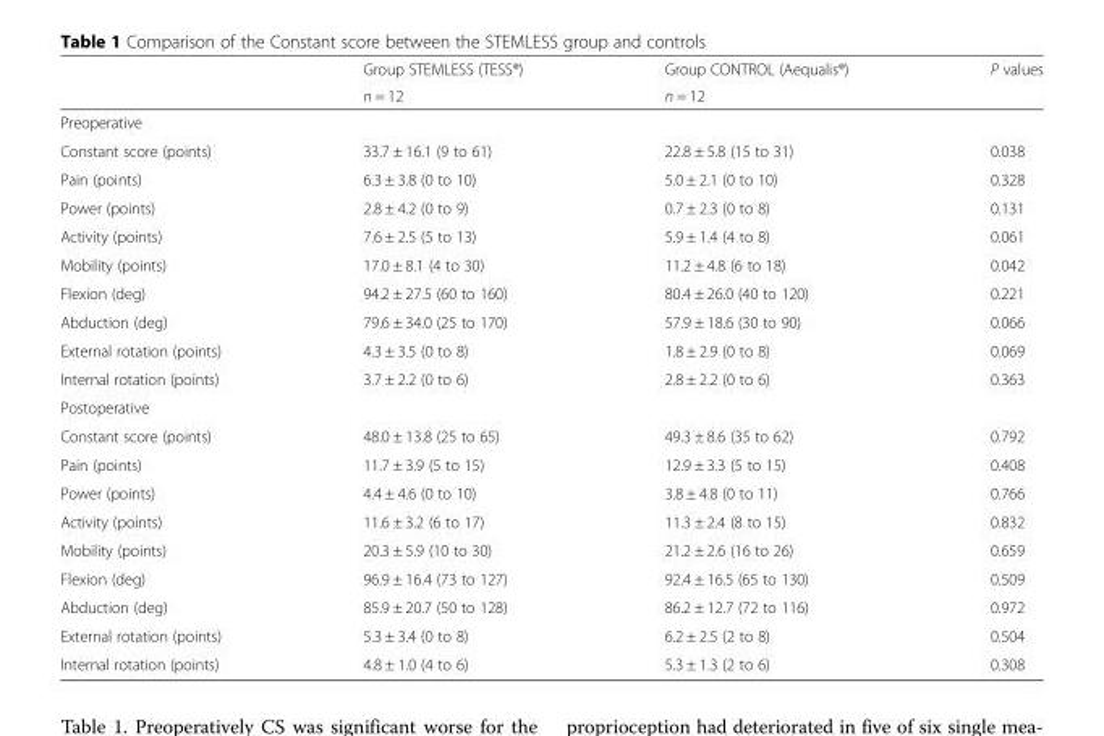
<table><thead><tr><td rowspan="2"></td><td rowspan="2">Group STEMLESS (TESS®) n = 12</td><td rowspan="2">Group CONTROL (Aequalis®) n = 12</td><td rowspan="2">P values</td></tr><tr></tr></thead><tbody><tr><td colspan="4">Preoperative</td></tr><tr><td>Constant score (points)</td><td>33.7 ± 16.1 (9 to 61)</td><td>22.8 ± 5.8 (15 to 31)</td><td>0.038</td></tr><tr><td>Pain (points)</td><td>6.3 ± 3.8 (0 to 10)</td><td>5.0 ± 2.1 (0 to 10)</td><td>0.328</td></tr><tr><td>Power (points)</td><td>2.8 ± 4.2 (0 to 9)</td><td>0.7 ± 2.3 (0 to 8)</td><td>0.131</td></tr><tr><td>Activity (points)</td><td>7.6 ± 2.5 (5 to 13)</td><td>5.9 ± 1.4 (4 to 8)</td><td>0.061</td></tr><tr><td>Mobility (points)</td><td>17.0 ± 8.1 (4 to 30)</td><td>11.2 ± 4.8 (6 to 18)</td><td>0.042</td></tr><tr><td>Flexion (deg)</td><td>94.2 ± 27.5 (60 to 160)</td><td>80.4 ± 26.0 (40 to 120)</td><td>0.221</td></tr><tr><td>Abduction (deg)</td><td>79.6 ± 34.0 (25 to 170)</td><td>57.9 ± 18.6 (30 to 90)</td><td>0.066</td></tr><tr><td>External rotation (points)</td><td>4.3 ± 3.5 (0 to 8)</td><td>1.8 ± 2.9 (0 to 8)</td><td>0.069</td></tr><tr><td>Internal rotation (points)</td><td>3.7 ± 2.2 (0 to 6)</td><td>2.8 ± 2.2 (0 to 6)</td><td>0.363</td></tr><tr><td colspan="4">Postoperative</td></tr><tr><td>Constant score (points)</td><td>48.0 ± 13.8 (25 to 65)</td><td>49.3 ± 8.6 (35 to 62)</td><td>0.792</td></tr><tr><td>Pain (points)</td><td>11.7 ± 3.9 (5 to 15)</td><td>12.9 ± 3.3 (5 to 15)</td><td>0.408</td></tr><tr><td>Power (points)</td><td>4.4 ± 4.6 (0 to 10)</td><td>3.8 ± 4.8 (0 to 11)</td><td>0.766</td></tr><tr><td>Activity (points)</td><td>11.6 ± 3.2 (6 to 17)</td><td>11.3 ± 2.4 (8 to 15)</td><td>0.832</td></tr><tr><td>Mobility (points)</td><td>20.3 ± 5.9 (10 to 30)</td><td>21.2 ± 2.6 (16 to 26)</td><td>0.659</td></tr><tr><td>Flexion (deg)</td><td>96.9 ± 16.4 (73 to 127)</td><td>92.4 ± 16.5 (65 to 130)</td><td>0.509</td></tr><tr><td>Abduction (deg)</td><td>85.9 ± 20.7 (50 to 128)</td><td>86.2 ± 12.7 (72 to 116)</td><td>0.972</td></tr><tr><td>External rotation (points)</td><td>5.3 ± 3.4 (0 to 8)</td><td>6.2 ± 2.5 (2 to 8)</td><td>0.504</td></tr><tr><td>Internal rotation (points)</td><td>4.8 ± 1.0 (4 to 6)</td><td>5.3 ± 1.3 (2 to 6)</td><td>0.308</td></tr></tbody></table>